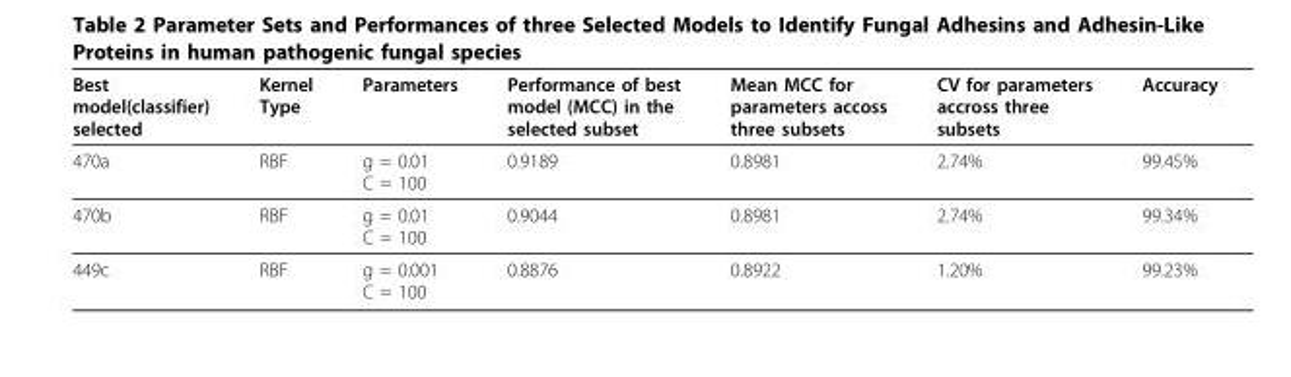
<table><thead><tr><td>Best model(classifier) selected</td><td>Kernel Type</td><td>Parameters</td><td>Performance of best model (MCC) in the selected subset</td><td>Mean MCC for parameters accoss three subsets</td><td>CV for parameters accross three subsets</td><td>Accuracy</td></tr></thead><tbody><tr><td>470a</td><td>RBF</td><td>g = 0.01 C = 100</td><td>0.9189</td><td>0.8981</td><td>2.74%</td><td>99.45%</td></tr><tr><td>470b</td><td>RBF</td><td>g = 0.01 C = 100</td><td>0.9044</td><td>0.8981</td><td>2.74%</td><td>99.34%</td></tr><tr><td>449c</td><td>RBF</td><td>g = 0.001 C = 100</td><td>0.8876</td><td>0.8922</td><td>1.20%</td><td>99.23%</td></tr></tbody></table>